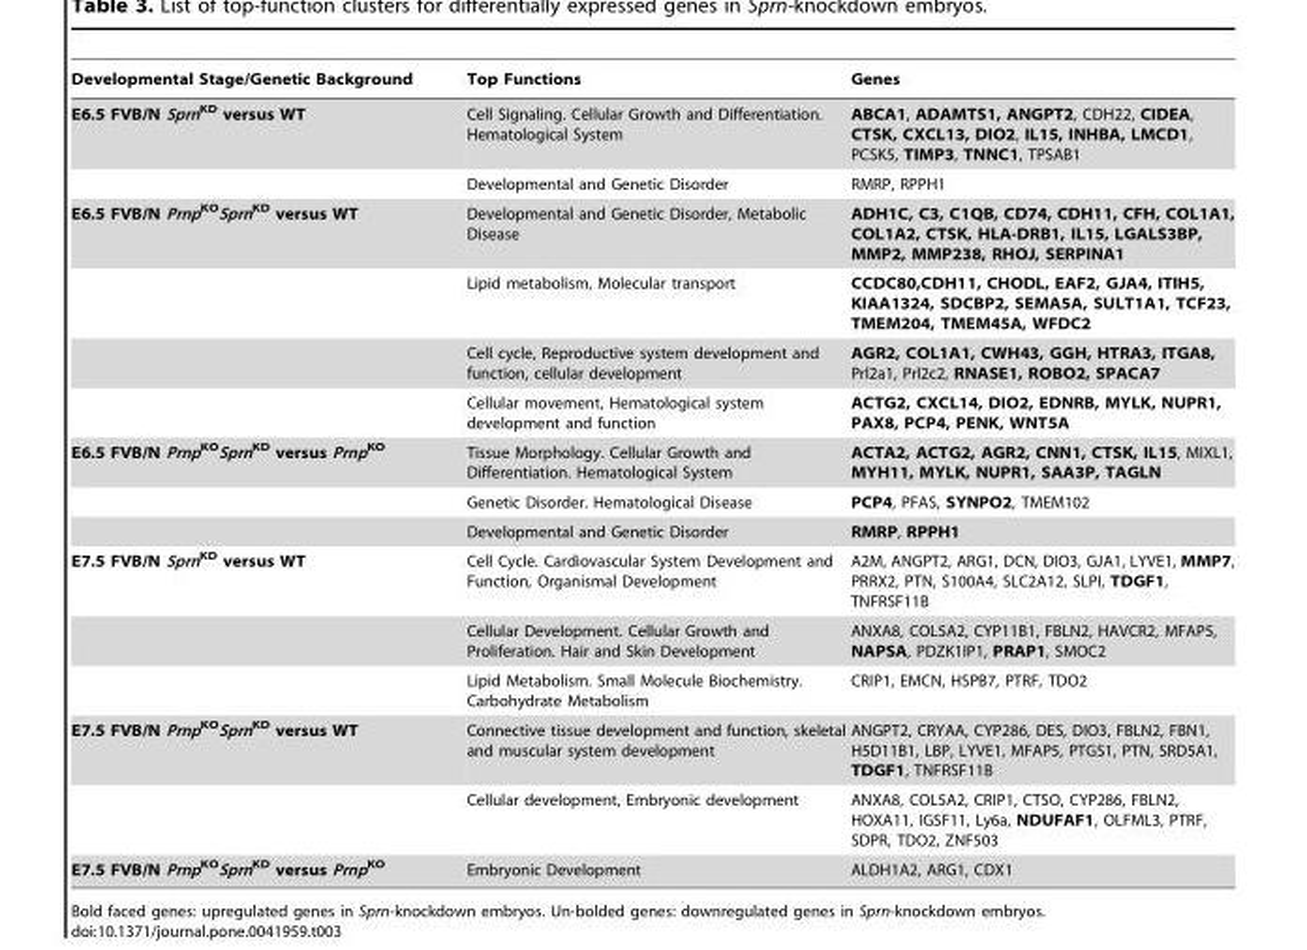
<table><thead><tr><td>Developmental Stage/Genetic Background</td><td>Top Functions</td><td>Genes</td></tr></thead><tbody><tr><td rowspan="2">E6.5 FVB/N Sprn<sup>KD</sup> versus WT</td><td>Cell Signaling. Cellular Growth and Differentiation. Hematological System</td><td>ABCA1, ADAMTS1, ANGPT2, CDH22, CIDEA, CTSK, CXCL13, DIO2, IL15, INHBA, LMCD1, PCSK5, TIMP3, TNNC1, TPSAB1</td></tr><tr><td>Developmental and Genetic Disorder</td><td>RMRP, RPPH1</td></tr><tr><td rowspan="4">E6.5 FVB/N Prnp<sup>KO</sup>Sprn<sup>KD</sup> versus WT</td><td>Developmental and Genetic Disorder, Metabolic Disease</td><td>ADH1C, C3, C1QB, CD74, CDH11, CFH, COL1A1, COL1A2, CTSK, HLA-DRB1, IL15, LGALS3BP, MMP2, MMP238, RHOJ, SERPINA1</td></tr><tr><td>Lipid metabolism, Molecular transport</td><td>CCDC80,CDH11, CHODL, EAF2, GJA4, ITIH5, KIAA1324, SDCBP2, SEMA5A, SULT1A1, TCF23, TMEM204, TMEM45A, WFDC2</td></tr><tr><td>Cell cycle, Reproductive system development and function, cellular development</td><td>AGR2, COL1A1, CWH43, GGH, HTRA3, ITGA8, Prl2a1, Prl2c2, RNASE1, ROBO2, SPACA7</td></tr><tr><td>Cellular movement, Hematological system development and function</td><td>ACTG2, CXCL14, DIO2, EDNRB, MYLK, NUPR1, PAX8, PCP4, PENK, WNT5A</td></tr><tr><td rowspan="3">E6.5 FVB/N Prnp<sup>KO</sup>Sprn<sup>KD</sup> versus Prnp<sup>KO</sup></td><td>Tissue Morphology. Cellular Growth and Differentiation. Hematological System</td><td>ACTA2, ACTG2, AGR2, CNN1, CTSK, IL15, MIXL1, MYH11, MYLK, NUPR1, SAA3P, TAGLN</td></tr><tr><td>Genetic Disorder. Hematological Disease</td><td>PCP4, PFAS, SYNPO2, TMEM102</td></tr><tr><td>Developmental and Genetic Disorder</td><td>RMRP, RPPH1</td></tr><tr><td rowspan="3">E7.5 FVB/N Sprn<sup>KD</sup> versus WT</td><td>Cell Cycle. Cardiovascular System Development and Function, Organismal Development</td><td>A2M, ANGPT2, ARG1, DCN, DIO3, GJA1, LYVE1, MMP7, PRRX2, PTN, S100A4, SLC2A12, SLPI, TDGF1, TNFRSF11B</td></tr><tr><td>Cellular Development. Cellular Growth and Proliferation. Hair and Skin Development</td><td>ANXA8, COL5A2, CYP11B1, FBLN2, HAVCR2, MFAP5, NAPSA, PDZK1IP1, PRAP1, SMOC2</td></tr><tr><td>Lipid Metabolism. Small Molecule Biochemistry. Carbohydrate Metabolism</td><td>CRIP1, EMCN, HSPB7, PTRF, TDO2</td></tr><tr><td rowspan="2">E7.5 FVB/N Prnp<sup>KO</sup>Sprn<sup>KD</sup> versus WT</td><td>Connective tissue development and function, skeletal and muscular system development</td><td>ANGPT2, CRYAA, CYP286, DES, DIO3, FBLN2, FBN1, H5D11B1, LBP, LYVE1, MFAP5, PTGS1, PTN, SRD5A1, TDGF1, TNFRSF11B</td></tr><tr><td>Cellular development, Embryonic development</td><td>ANXA8, COL5A2, CRIP1, CTSO, CYP286, FBLN2, HOXA11, IGSF11, Ly6a, NDUFAF1, OLFML3, PTRF, SDPR, TDO2, ZNF503</td></tr><tr><td>E7.5 FVB/N Prnp<sup>KO</sup>Sprn<sup>KD</sup> versus Prnp<sup>KO</sup></td><td>Embryonic Development</td><td>ALDH1A2, ARG1, CDX1</td></tr></tbody></table>